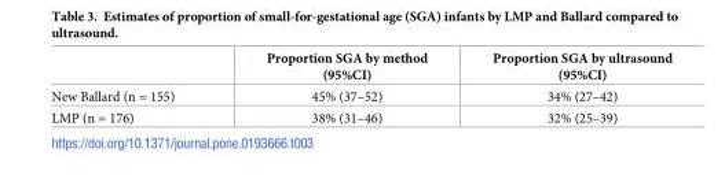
<table><thead><tr><td></td><td>Proportion SGA by method (95%CI)</td><td>Proportion SGA by ultrasound (95%CI)</td></tr></thead><tbody><tr><td>New Ballard (n = 155)</td><td>45% (37–52)</td><td>34% (27–42)</td></tr><tr><td>LMP (n = 176)</td><td>38% (31–46)</td><td>32% (25–39)</td></tr></tbody></table>